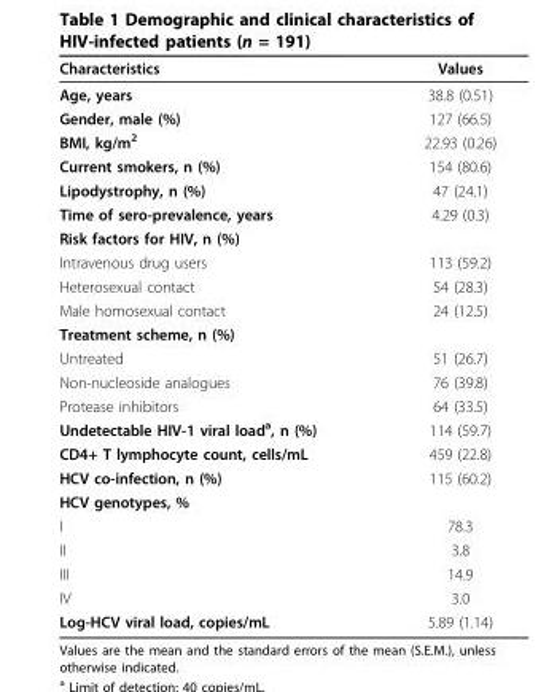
<table><thead><tr><td>Characteristics</td><td>Values</td></tr></thead><tbody><tr><td>Age, years</td><td>38.8 (0.51)</td></tr><tr><td>Gender, male (%)</td><td>127 (66.5)</td></tr><tr><td>BMI, kg/m<sup>2</sup></td><td>22.93 (0.26)</td></tr><tr><td>Current smokers, n (%)</td><td>154 (80.6)</td></tr><tr><td>Lipodystrophy, n (%)</td><td>47 (24.1)</td></tr><tr><td>Time of sero-prevalence, years</td><td>4.29 (0.3)</td></tr><tr><td colspan="2">Risk factors for HIV, n (%)</td></tr><tr><td>Intravenous drug users</td><td>113 (59.2)</td></tr><tr><td>Heterosexual contact</td><td>54 (28.3)</td></tr><tr><td>Male homosexual contact</td><td>24 (12.5)</td></tr><tr><td colspan="2">Treatment scheme, n (%)</td></tr><tr><td>Untreated</td><td>51 (26.7)</td></tr><tr><td>Non-nucleoside analogues</td><td>76 (39.8)</td></tr><tr><td>Protease inhibitors</td><td>64 (33.5)</td></tr><tr><td>Undetectable HIV-1 viral load<sup>a</sup>, n (%)</td><td>114 (59.7)</td></tr><tr><td>CD4+ T lymphocyte count, cells/mL</td><td>459 (22.8)</td></tr><tr><td>HCV co-infection, n (%)</td><td>115 (60.2)</td></tr><tr><td colspan="2">HCV genotypes, %</td></tr><tr><td>I</td><td>78.3</td></tr><tr><td>II</td><td>3.8</td></tr><tr><td>III</td><td>14.9</td></tr><tr><td>IV</td><td>3.0</td></tr><tr><td>Log-HCV viral load, copies/mL</td><td>5.89 (1.14)</td></tr></tbody></table>